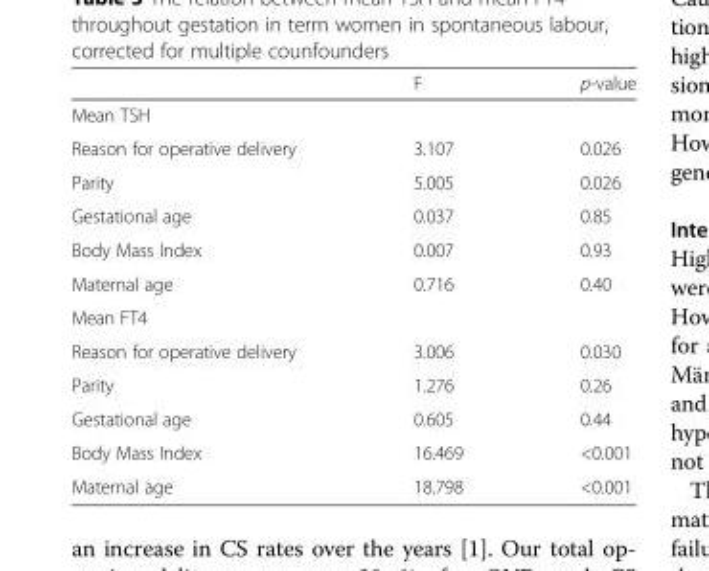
<table><thead><tr><td></td><td>F</td><td>p-value</td></tr></thead><tbody><tr><td colspan="3">Mean TSH</td></tr><tr><td>Reason for operative delivery</td><td>3.107</td><td>0.026</td></tr><tr><td>Parity</td><td>5.005</td><td>0.026</td></tr><tr><td>Gestational age</td><td>0.037</td><td>0.85</td></tr><tr><td>Body Mass Index</td><td>0.007</td><td>0.93</td></tr><tr><td>Maternal age</td><td>0.716</td><td>0.40</td></tr><tr><td colspan="3">Mean FT4</td></tr><tr><td>Reason for operative delivery</td><td>3.006</td><td>0.030</td></tr><tr><td>Parity</td><td>1.276</td><td>0.26</td></tr><tr><td>Gestational age</td><td>0.605</td><td>0.44</td></tr><tr><td>Body Mass Index</td><td>16.469</td><td>&lt;0.001</td></tr><tr><td>Maternal age</td><td>18.798</td><td>&lt;0.001</td></tr></tbody></table>